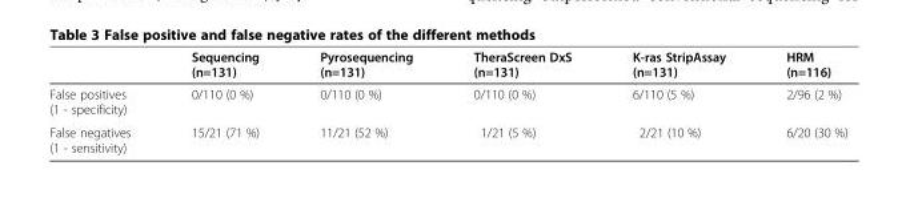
<table><thead><tr><td></td><td>Sequencing (n=131)</td><td>Pyrosequencing (n=131)</td><td>TheraScreen DxS (n=131)</td><td>K-ras StripAssay (n=131)</td><td>HRM (n=116)</td></tr></thead><tbody><tr><td>False positives (1 - specificity)</td><td>0/110 (0 %)</td><td>0/110 (0 %)</td><td>0/110 (0 %)</td><td>6/110 (5 %)</td><td>2/96 (2 %)</td></tr><tr><td>False negatives (1 - sensitivity)</td><td>15/21 (71 %)</td><td>11/21 (52 %)</td><td>1/21 (5 %)</td><td>2/21 (10 %)</td><td>6/20 (30 %)</td></tr></tbody></table>